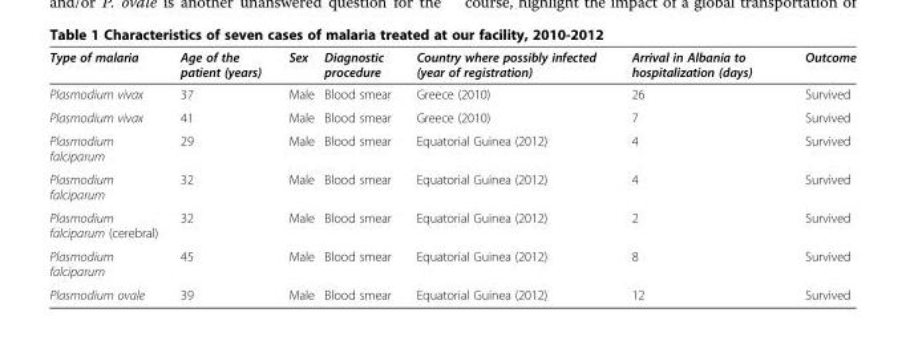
<table><thead><tr><td>Type of malaria</td><td>Age of the patient (years)</td><td>Sex</td><td>Diagnostic procedure</td><td>Country where possibly infected (year of registration)</td><td>Arrival in Albania to hospitalization (days)</td><td>Outcome</td></tr></thead><tbody><tr><td>Plasmodium vivax</td><td>37</td><td>Male</td><td>Blood smear</td><td>Greece (2010)</td><td>26</td><td>Survived</td></tr><tr><td>Plasmodium vivax</td><td>41</td><td>Male</td><td>Blood smear</td><td>Greece (2010)</td><td>7</td><td>Survived</td></tr><tr><td>Plasmodium falciparum</td><td>29</td><td>Male</td><td>Blood smear</td><td>Equatorial Guinea (2012)</td><td>4</td><td>Survived</td></tr><tr><td>Plasmodium falciparum</td><td>32</td><td>Male</td><td>Blood smear</td><td>Equatorial Guinea (2012)</td><td>4</td><td>Survived</td></tr><tr><td>Plasmodium falciparum (cerebral)</td><td>32</td><td>Male</td><td>Blood smear</td><td>Equatorial Guinea (2012)</td><td>2</td><td>Survived</td></tr><tr><td>Plasmodium falciparum</td><td>45</td><td>Male</td><td>Blood smear</td><td>Equatorial Guinea (2012)</td><td>8</td><td>Survived</td></tr><tr><td>Plasmodium ovale</td><td>39</td><td>Male</td><td>Blood smear</td><td>Equatorial Guinea (2012)</td><td>12</td><td>Survived</td></tr></tbody></table>